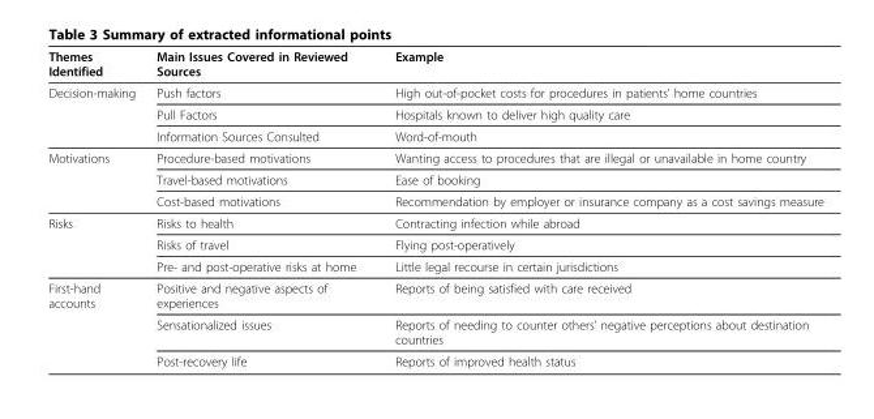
<table><thead><tr><td>Themes Identified</td><td>Main Issues Covered in Reviewed Sources</td><td>Example</td></tr></thead><tbody><tr><td rowspan="3">Decision-making</td><td>Push factors</td><td>High out-of-pocket costs for procedures in patients’ home countries</td></tr><tr><td>Pull Factors</td><td>Hospitals known to deliver high quality care</td></tr><tr><td>Information Sources Consulted</td><td>Word-of-mouth</td></tr><tr><td rowspan="3">Motivations</td><td>Procedure-based motivations</td><td>Wanting access to procedures that are illegal or unavailable in home country</td></tr><tr><td>Travel-based motivations</td><td>Ease of booking</td></tr><tr><td>Cost-based motivations</td><td>Recommendation by employer or insurance company as a cost savings measure</td></tr><tr><td rowspan="3">Risks</td><td>Risks to health</td><td>Contracting infection while abroad</td></tr><tr><td>Risks of travel</td><td>Flying post-operatively</td></tr><tr><td>Pre- and post-operative risks at home</td><td>Little legal recourse in certain jurisdictions</td></tr><tr><td rowspan="3">First-hand accounts</td><td>Positive and negative aspects of experiences</td><td>Reports of being satisfied with care received</td></tr><tr><td>Sensationalized issues</td><td>Reports of needing to counter others’ negative perceptions about destination countries</td></tr><tr><td>Post-recovery life</td><td>Reports of improved health status</td></tr></tbody></table>